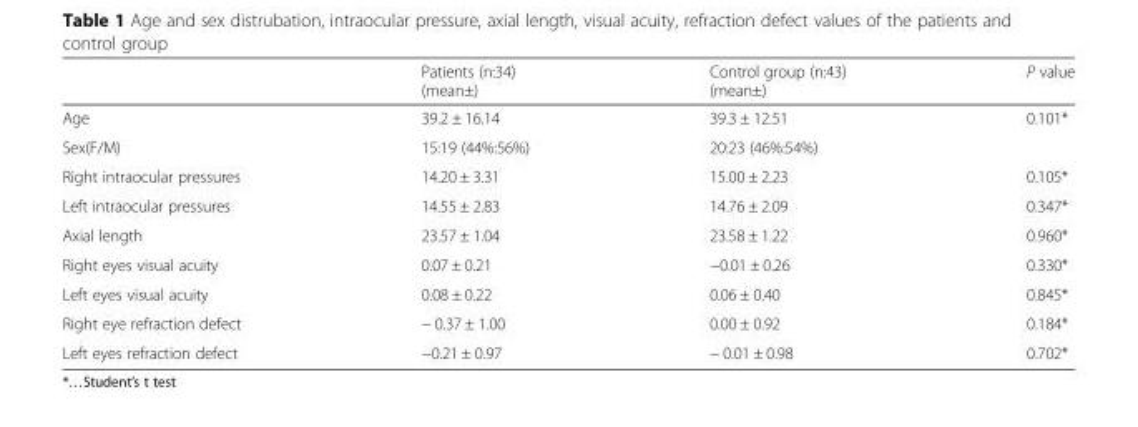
<table><thead><tr><td></td><td>Patients (n:34) (mean±)</td><td>Control group (n:43) (mean±)</td><td>P value</td></tr></thead><tbody><tr><td>Age</td><td>39.2 ± 16.14</td><td>39.3 ± 12.51</td><td>0.101*</td></tr><tr><td>Sex(F/M)</td><td>15:19 (44%:56%)</td><td>20:23 (46%:54%)</td><td></td></tr><tr><td>Right intraocular pressures</td><td>14.20 ± 3.31</td><td>15.00 ± 2.23</td><td>0.105*</td></tr><tr><td>Left intraocular pressures</td><td>14.55 ± 2.83</td><td>14.76 ± 2.09</td><td>0.347*</td></tr><tr><td>Axial length</td><td>23.57 ± 1.04</td><td>23.58 ± 1.22</td><td>0.960*</td></tr><tr><td>Right eyes visual acuity</td><td>0.07 ± 0.21</td><td>−0.01 ± 0.26</td><td>0.330*</td></tr><tr><td>Left eyes visual acuity</td><td>0.08 ± 0.22</td><td>0.06 ± 0.40</td><td>0.845*</td></tr><tr><td>Right eye refraction defect</td><td>− 0.37 ± 1.00</td><td>0.00 ± 0.92</td><td>0.184*</td></tr><tr><td>Left eyes refraction defect</td><td>−0.21 ± 0.97</td><td>− 0.01 ± 0.98</td><td>0.702*</td></tr></tbody></table>